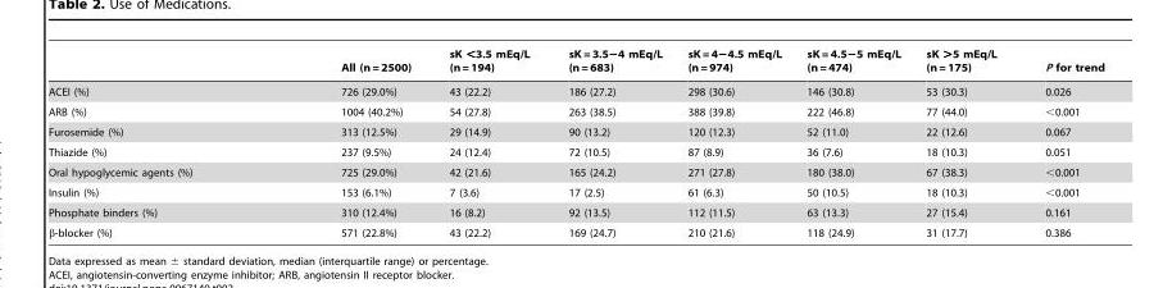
<table><thead><tr><td></td><td>All (n = 2500)</td><td>sK &lt;3.5 mEq/L (n = 194)</td><td>sK = 3.5−4 mEq/L (n = 683)</td><td>sK = 4−4.5 mEq/L (n = 974)</td><td>sK = 4.5−5 mEq/L (n = 474)</td><td>sK &gt;5 mEq/L (n = 175)</td><td>P for trend</td></tr></thead><tbody><tr><td>ACEI (%)</td><td>726 (29.0%)</td><td>43 (22.2)</td><td>186 (27.2)</td><td>298 (30.6)</td><td>146 (30.8)</td><td>53 (30.3)</td><td>0.026</td></tr><tr><td>ARB (%)</td><td>1004 (40.2%)</td><td>54 (27.8)</td><td>263 (38.5)</td><td>388 (39.8)</td><td>222 (46.8)</td><td>77 (44.0)</td><td>&lt;0.001</td></tr><tr><td>Furosemide (%)</td><td>313 (12.5%)</td><td>29 (14.9)</td><td>90 (13.2)</td><td>120 (12.3)</td><td>52 (11.0)</td><td>22 (12.6)</td><td>0.067</td></tr><tr><td>Thiazide (%)</td><td>237 (9.5%)</td><td>24 (12.4)</td><td>72 (10.5)</td><td>87 (8.9)</td><td>36 (7.6)</td><td>18 (10.3)</td><td>0.051</td></tr><tr><td>Oral hypoglycemic agents (%)</td><td>725 (29.0%)</td><td>42 (21.6)</td><td>165 (24.2)</td><td>271 (27.8)</td><td>180 (38.0)</td><td>67 (38.3)</td><td>&lt;0.001</td></tr><tr><td>Insulin (%)</td><td>153 (6.1%)</td><td>7 (3.6)</td><td>17 (2.5)</td><td>61 (6.3)</td><td>50 (10.5)</td><td>18 (10.3)</td><td>&lt;0.001</td></tr><tr><td>Phosphate binders (%)</td><td>310 (12.4%)</td><td>16 (8.2)</td><td>92 (13.5)</td><td>112 (11.5)</td><td>63 (13.3)</td><td>27 (15.4)</td><td>0.161</td></tr><tr><td>β-blocker (%)</td><td>571 (22.8%)</td><td>43 (22.2)</td><td>169 (24.7)</td><td>210 (21.6)</td><td>118 (24.9)</td><td>31 (17.7)</td><td>0.386</td></tr></tbody></table>